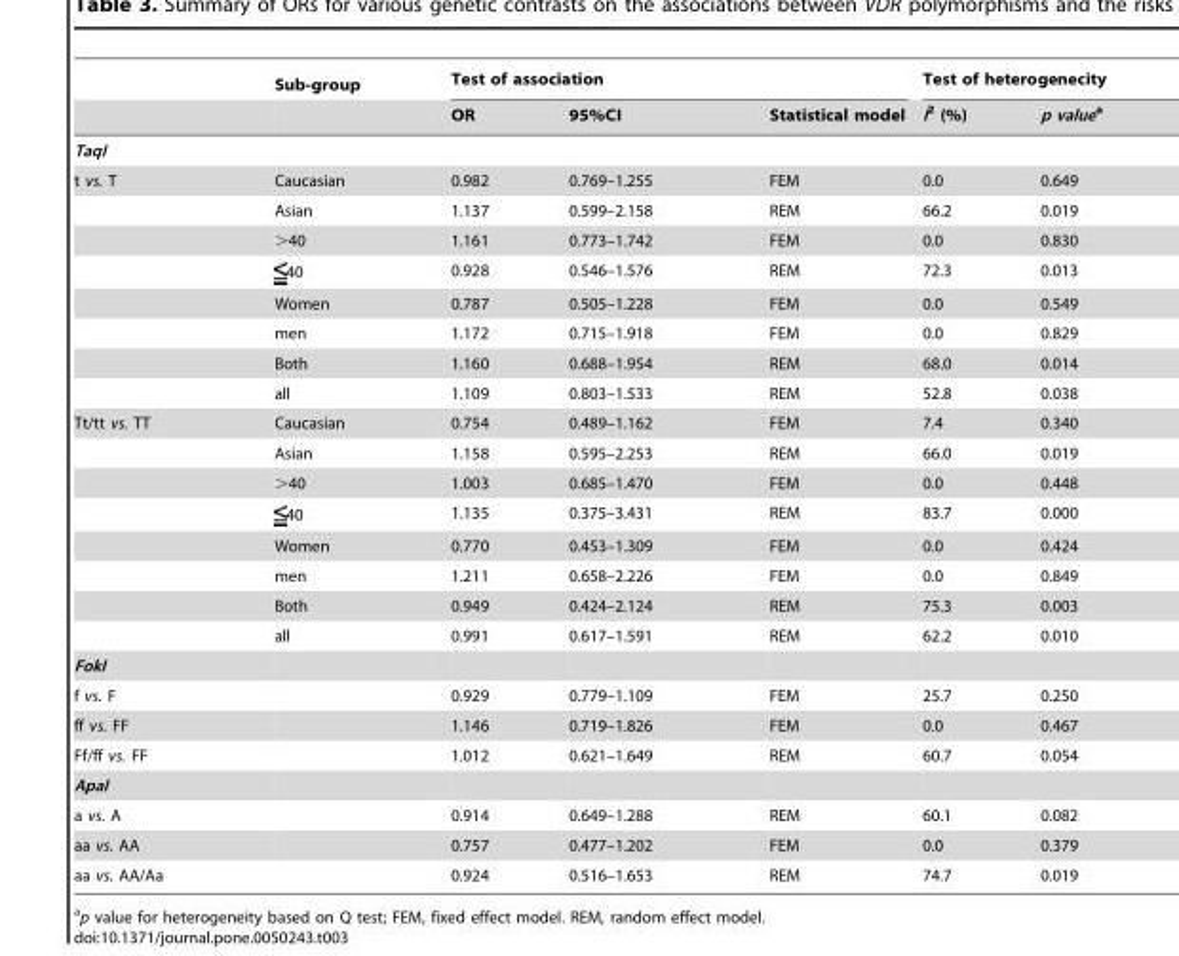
<table><thead><tr><td rowspan="2"></td><td rowspan="2">Sub-group</td><td colspan="3">Test of association</td><td colspan="2">Test of heterogenecity</td></tr><tr><td>OR</td><td>95%CI</td><td>Statistical model</td><td>I<sup>2</sup> (%)</td><td>p valuea</td></tr></thead><tbody><tr><td colspan="7">TaqI</td></tr><tr><td rowspan="8">t vs. T</td><td>Caucasian</td><td>0.982</td><td>0.769–1.255</td><td>FEM</td><td>0.0</td><td>0.649</td></tr><tr><td>Asian</td><td>1.137</td><td>0.599–2.158</td><td>REM</td><td>66.2</td><td>0.019</td></tr><tr><td>&gt;40</td><td>1.161</td><td>0.773–1.742</td><td>FEM</td><td>0.0</td><td>0.830</td></tr><tr><td>40</td><td>0.928</td><td>0.546–1.576</td><td>REM</td><td>72.3</td><td>0.013</td></tr><tr><td>Women</td><td>0.787</td><td>0.505–1.228</td><td>FEM</td><td>0.0</td><td>0.549</td></tr><tr><td>men</td><td>1.172</td><td>0.715–1.918</td><td>FEM</td><td>0.0</td><td>0.829</td></tr><tr><td>Both</td><td>1.160</td><td>0.688–1.954</td><td>REM</td><td>68.0</td><td>0.014</td></tr><tr><td>all</td><td>1.109</td><td>0.803–1.533</td><td>REM</td><td>52.8</td><td>0.038</td></tr><tr><td rowspan="8">Tt/tt vs. TT</td><td>Caucasian</td><td>0.754</td><td>0.489–1.162</td><td>FEM</td><td>7.4</td><td>0.340</td></tr><tr><td>Asian</td><td>1.158</td><td>0.595–2.253</td><td>REM</td><td>66.0</td><td>0.019</td></tr><tr><td>&gt;40</td><td>1.003</td><td>0.685–1.470</td><td>FEM</td><td>0.0</td><td>0.448</td></tr><tr><td>40</td><td>1.135</td><td>0.375–3.431</td><td>REM</td><td>83.7</td><td>0.000</td></tr><tr><td>Women</td><td>0.770</td><td>0.453–1.309</td><td>FEM</td><td>0.0</td><td>0.424</td></tr><tr><td>men</td><td>1.211</td><td>0.658–2.226</td><td>FEM</td><td>0.0</td><td>0.849</td></tr><tr><td>Both</td><td>0.949</td><td>0.424–2.124</td><td>REM</td><td>75.3</td><td>0.003</td></tr><tr><td>all</td><td>0.991</td><td>0.617–1.591</td><td>REM</td><td>62.2</td><td>0.010</td></tr><tr><td colspan="7">FokI</td></tr><tr><td>f vs. F</td><td></td><td>0.929</td><td>0.779–1.109</td><td>FEM</td><td>25.7</td><td>0.250</td></tr><tr><td>ff vs. FF</td><td></td><td>1.146</td><td>0.719–1.826</td><td>FEM</td><td>0.0</td><td>0.467</td></tr><tr><td>Ff/ff vs. FF</td><td></td><td>1.012</td><td>0.621–1.649</td><td>REM</td><td>60.7</td><td>0.054</td></tr><tr><td colspan="7">ApaI</td></tr><tr><td>a vs. A</td><td></td><td>0.914</td><td>0.649–1.288</td><td>REM</td><td>60.1</td><td>0.082</td></tr><tr><td>aa vs. AA</td><td></td><td>0.757</td><td>0.477–1.202</td><td>FEM</td><td>0.0</td><td>0.379</td></tr><tr><td>aa vs. AA/Aa</td><td></td><td>0.924</td><td>0.516–1.653</td><td>REM</td><td>74.7</td><td>0.019</td></tr></tbody></table>